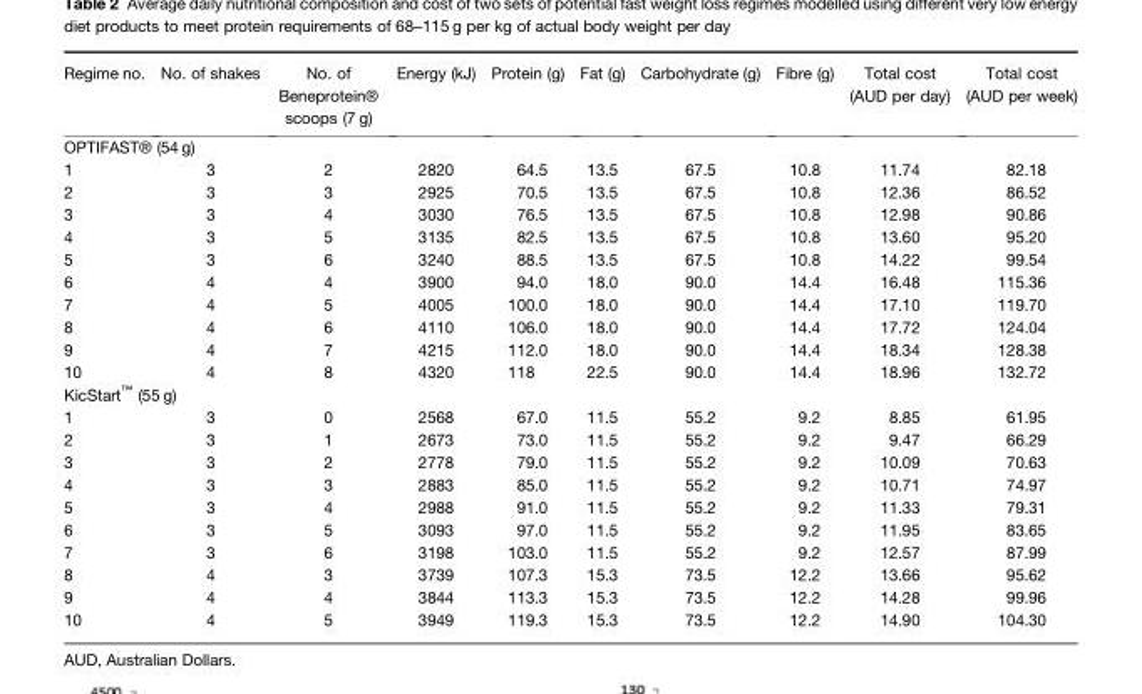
<table><thead><tr><td>Regime no.</td><td>No. of shakes</td><td>No. of Beneprotein® scoops (7 g)</td><td>Energy (kJ)</td><td>Protein (g)</td><td>Fat (g)</td><td>Carbohydrate (g)</td><td>Fibre (g)</td><td>Total cost (AUD per day)</td><td>Total cost (AUD per week)</td></tr></thead><tbody><tr><td colspan="10">OPTIFAST® (54 g)</td></tr><tr><td>1</td><td>3</td><td>2</td><td>2820</td><td>64.5</td><td>13.5</td><td>67.5</td><td>10.8</td><td>11.74</td><td>82.18</td></tr><tr><td>2</td><td>3</td><td>3</td><td>2925</td><td>70.5</td><td>13.5</td><td>67.5</td><td>10.8</td><td>12.36</td><td>86.52</td></tr><tr><td>3</td><td>3</td><td>4</td><td>3030</td><td>76.5</td><td>13.5</td><td>67.5</td><td>10.8</td><td>12.98</td><td>90.86</td></tr><tr><td>4</td><td>3</td><td>5</td><td>3135</td><td>82.5</td><td>13.5</td><td>67.5</td><td>10.8</td><td>13.60</td><td>95.20</td></tr><tr><td>5</td><td>3</td><td>6</td><td>3240</td><td>88.5</td><td>13.5</td><td>67.5</td><td>10.8</td><td>14.22</td><td>99.54</td></tr><tr><td>6</td><td>4</td><td>4</td><td>3900</td><td>94.0</td><td>18.0</td><td>90.0</td><td>14.4</td><td>16.48</td><td>115.36</td></tr><tr><td>7</td><td>4</td><td>5</td><td>4005</td><td>100.0</td><td>18.0</td><td>90.0</td><td>14.4</td><td>17.10</td><td>119.70</td></tr><tr><td>8</td><td>4</td><td>6</td><td>4110</td><td>106.0</td><td>18.0</td><td>90.0</td><td>14.4</td><td>17.72</td><td>124.04</td></tr><tr><td>9</td><td>4</td><td>7</td><td>4215</td><td>112.0</td><td>18.0</td><td>90.0</td><td>14.4</td><td>18.34</td><td>128.38</td></tr><tr><td>10</td><td>4</td><td>8</td><td>4320</td><td>118</td><td>22.5</td><td>90.0</td><td>14.4</td><td>18.96</td><td>132.72</td></tr><tr><td colspan="10">KicStart™ (55 g)</td></tr><tr><td>1</td><td>3</td><td>0</td><td>2568</td><td>67.0</td><td>11.5</td><td>55.2</td><td>9.2</td><td>8.85</td><td>61.95</td></tr><tr><td>2</td><td>3</td><td>1</td><td>2673</td><td>73.0</td><td>11.5</td><td>55.2</td><td>9.2</td><td>9.47</td><td>66.29</td></tr><tr><td>3</td><td>3</td><td>2</td><td>2778</td><td>79.0</td><td>11.5</td><td>55.2</td><td>9.2</td><td>10.09</td><td>70.63</td></tr><tr><td>4</td><td>3</td><td>3</td><td>2883</td><td>85.0</td><td>11.5</td><td>55.2</td><td>9.2</td><td>10.71</td><td>74.97</td></tr><tr><td>5</td><td>3</td><td>4</td><td>2988</td><td>91.0</td><td>11.5</td><td>55.2</td><td>9.2</td><td>11.33</td><td>79.31</td></tr><tr><td>6</td><td>3</td><td>5</td><td>3093</td><td>97.0</td><td>11.5</td><td>55.2</td><td>9.2</td><td>11.95</td><td>83.65</td></tr><tr><td>7</td><td>3</td><td>6</td><td>3198</td><td>103.0</td><td>11.5</td><td>55.2</td><td>9.2</td><td>12.57</td><td>87.99</td></tr><tr><td>8</td><td>4</td><td>3</td><td>3739</td><td>107.3</td><td>15.3</td><td>73.5</td><td>12.2</td><td>13.66</td><td>95.62</td></tr><tr><td>9</td><td>4</td><td>4</td><td>3844</td><td>113.3</td><td>15.3</td><td>73.5</td><td>12.2</td><td>14.28</td><td>99.96</td></tr><tr><td>10</td><td>4</td><td>5</td><td>3949</td><td>119.3</td><td>15.3</td><td>73.5</td><td>12.2</td><td>14.90</td><td>104.30</td></tr></tbody></table>